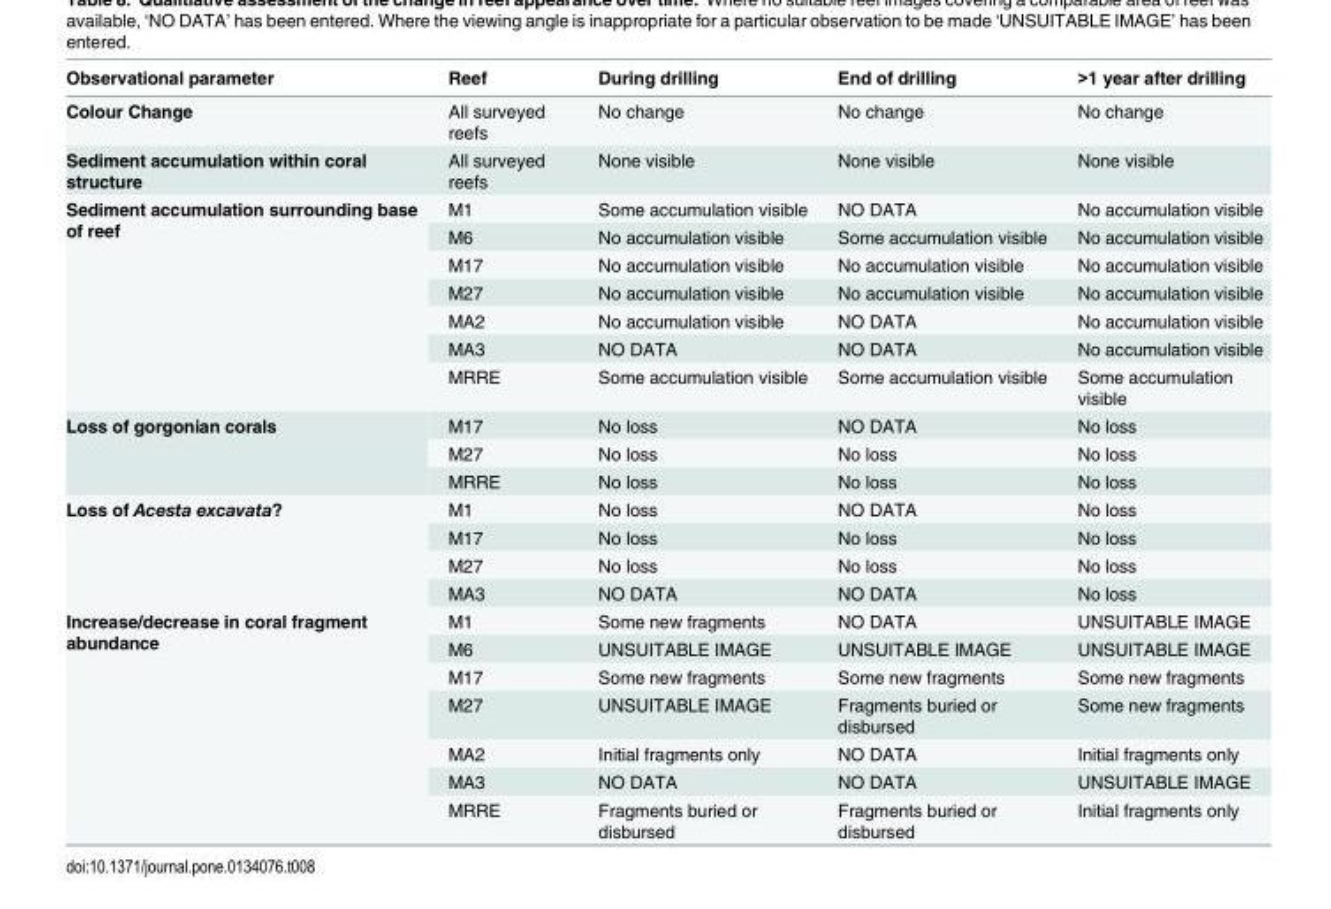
<table><thead><tr><td>Observational parameter</td><td>Reef</td><td>During drilling</td><td>End of drilling</td><td>&gt;1 year after drilling</td></tr></thead><tbody><tr><td>Colour Change</td><td>All surveyed reefs</td><td>No change</td><td>No change</td><td>No change</td></tr><tr><td>Sediment accumulation within coral structure</td><td>All surveyed reefs</td><td>None visible</td><td>None visible</td><td>None visible</td></tr><tr><td rowspan="7">Sediment accumulation surrounding base of reef</td><td>M1</td><td>Some accumulation visible</td><td>NO DATA</td><td>No accumulation visible</td></tr><tr><td>M6</td><td>No accumulation visible</td><td>Some accumulation visible</td><td>No accumulation visible</td></tr><tr><td>M17</td><td>No accumulation visible</td><td>No accumulation visible</td><td>No accumulation visible</td></tr><tr><td>M27</td><td>No accumulation visible</td><td>No accumulation visible</td><td>No accumulation visible</td></tr><tr><td>MA2</td><td>No accumulation visible</td><td>NO DATA</td><td>No accumulation visible</td></tr><tr><td>MA3</td><td>NO DATA</td><td>NO DATA</td><td>No accumulation visible</td></tr><tr><td>MRRE</td><td>Some accumulation visible</td><td>Some accumulation visible</td><td>Some accumulation visible</td></tr><tr><td rowspan="3">Loss of gorgonian corals</td><td>M17</td><td>No loss</td><td>NO DATA</td><td>No loss</td></tr><tr><td>M27</td><td>No loss</td><td>No loss</td><td>No loss</td></tr><tr><td>MRRE</td><td>No loss</td><td>No loss</td><td>No loss</td></tr><tr><td rowspan="4">Loss of Acesta excavata?</td><td>M1</td><td>No loss</td><td>NO DATA</td><td>No loss</td></tr><tr><td>M17</td><td>No loss</td><td>No loss</td><td>No loss</td></tr><tr><td>M27</td><td>No loss</td><td>No loss</td><td>No loss</td></tr><tr><td>MA3</td><td>NO DATA</td><td>NO DATA</td><td>No loss</td></tr><tr><td rowspan="7">Increase/decrease in coral fragment abundance</td><td>M1</td><td>Some new fragments</td><td>NO DATA</td><td>UNSUITABLE IMAGE</td></tr><tr><td>M6</td><td>UNSUITABLE IMAGE</td><td>UNSUITABLE IMAGE</td><td>UNSUITABLE IMAGE</td></tr><tr><td>M17</td><td>Some new fragments</td><td>Some new fragments</td><td>Some new fragments</td></tr><tr><td>M27</td><td>UNSUITABLE IMAGE</td><td>Fragments buried or disbursed</td><td>Some new fragments</td></tr><tr><td>MA2</td><td>Initial fragments only</td><td>NO DATA</td><td>Initial fragments only</td></tr><tr><td>MA3</td><td>NO DATA</td><td>NO DATA</td><td>UNSUITABLE IMAGE</td></tr><tr><td>MRRE</td><td>Fragments buried or disbursed</td><td>Fragments buried or disbursed</td><td>Initial fragments only</td></tr></tbody></table>